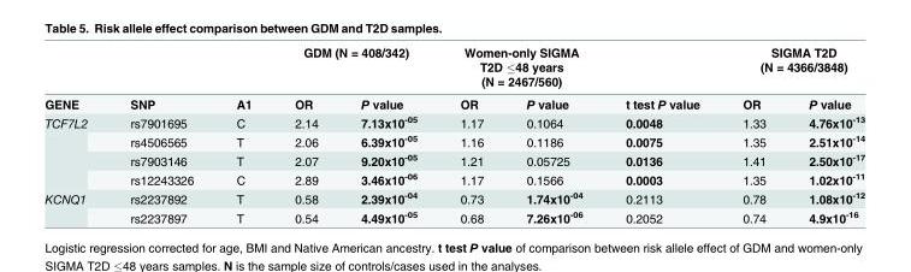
<table><thead><tr><td rowspan="2">GENE</td><td rowspan="2">SNP</td><td rowspan="2">A1</td><td colspan="2">GDM (N = 408/342)</td><td colspan="2">Women-only SIGMA T2D ≤48 years (N = 2467/560)</td><td rowspan="2">t test P value</td><td colspan="2">SIGMA T2D (N = 4366/3848)</td></tr><tr><td>OR</td><td>P value</td><td>OR</td><td>P value</td><td>OR</td><td>P value</td></tr></thead><tbody><tr><td rowspan="4">TCF7L2</td><td>rs7901695</td><td>C</td><td>2.14</td><td>7.13x10<sup>-05</sup></td><td>1.17</td><td>0.1064</td><td>0.0048</td><td>1.33</td><td>4.76x10<sup>-13</sup></td></tr><tr><td>rs4506565</td><td>T</td><td>2.06</td><td>6.39x10<sup>-05</sup></td><td>1.16</td><td>0.1186</td><td>0.0075</td><td>1.35</td><td>2.51x10<sup>-14</sup></td></tr><tr><td>rs7903146</td><td>T</td><td>2.07</td><td>9.20x10<sup>-05</sup></td><td>1.21</td><td>0.05725</td><td>0.0136</td><td>1.41</td><td>2.50x10<sup>-17</sup></td></tr><tr><td>rs12243326</td><td>C</td><td>2.89</td><td>3.46x10<sup>-06</sup></td><td>1.17</td><td>0.1566</td><td>0.0003</td><td>1.35</td><td>1.02x10<sup>-11</sup></td></tr><tr><td rowspan="2">KCNQ1</td><td>rs2237892</td><td>T</td><td>0.58</td><td>2.39x10<sup>-04</sup></td><td>0.73</td><td>1.74x10<sup>-04</sup></td><td>0.2113</td><td>0.78</td><td>1.08x10<sup>-12</sup></td></tr><tr><td>rs2237897</td><td>T</td><td>0.54</td><td>4.49x10<sup>-05</sup></td><td>0.68</td><td>7.26x10<sup>-06</sup></td><td>0.2052</td><td>0.74</td><td>4.9x10<sup>-16</sup></td></tr></tbody></table>